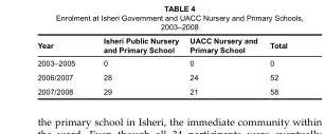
<table><thead><tr><td>Year</td><td>Isheri Public Nursery and Primary School</td><td>UaCC Nursery and Primary School</td><td>Total</td></tr></thead><tbody><tr><td>2003–2005</td><td>0</td><td>0</td><td>0</td></tr><tr><td>2006/2007</td><td>28</td><td>24</td><td>52</td></tr><tr><td>2007/2008</td><td>29</td><td>21</td><td>58</td></tr></tbody></table>